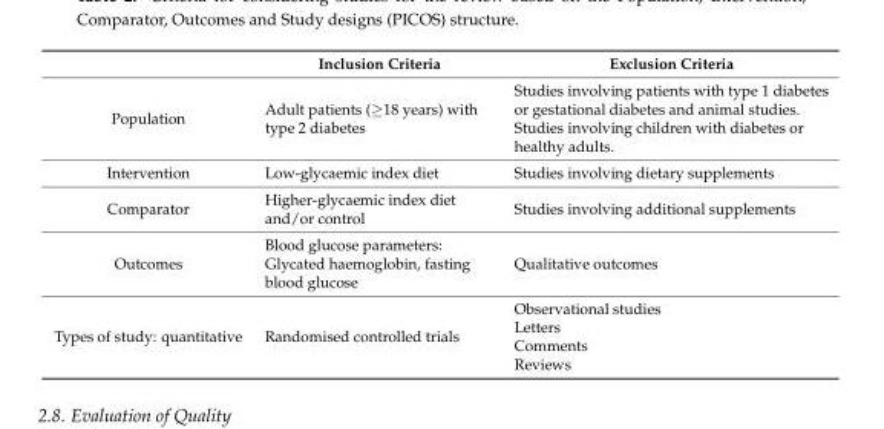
<table><thead><tr><td></td><td>Inclusion Criteria</td><td>Exclusion Criteria</td></tr></thead><tbody><tr><td>Population</td><td>Adult patients (≥18 years) with type 2 diabetes</td><td>Studies involving patients with type 1 diabetes or gestational diabetes and animal studies. Studies involving children with diabetes or healthy adults.</td></tr><tr><td>Intervention</td><td>Low-glycaemic index diet</td><td>Studies involving dietary supplements</td></tr><tr><td>Comparator</td><td>Higher-glycaemic index diet and/or control</td><td>Studies involving additional supplements</td></tr><tr><td>Outcomes</td><td>Blood glucose parameters: Glycated haemoglobin, fasting blood glucose</td><td>Qualitative outcomes</td></tr><tr><td>Types of study: quantitative</td><td>Randomised controlled trials</td><td>Observational studies Letters Comments Reviews</td></tr></tbody></table>